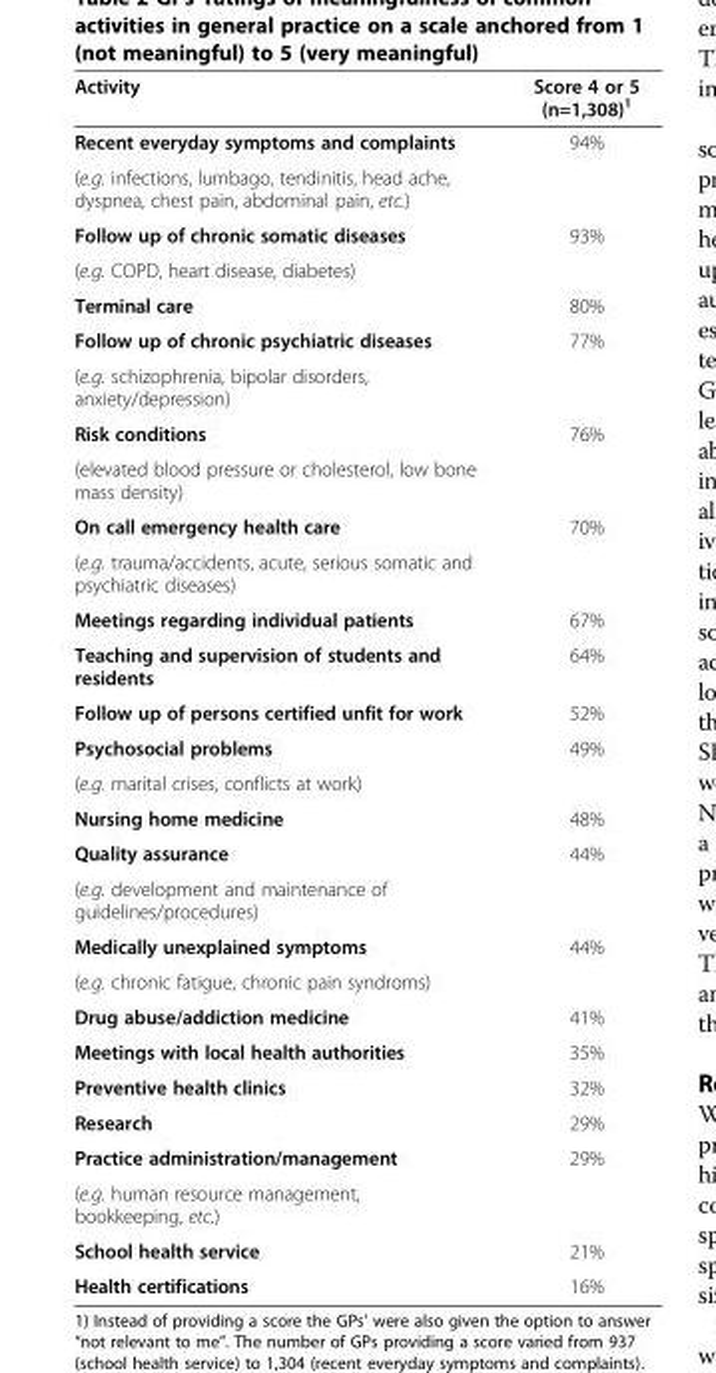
<table><thead><tr><td>Activity</td><td>Score 4 or 5 (n=1,308)<sup>1</sup></td></tr></thead><tbody><tr><td>Recent everyday symptoms and complaints</td><td rowspan="2">94%</td></tr><tr><td>(e.g. infections, lumbago, tendinitis, head ache, dyspnea, chest pain, abdominal pain, etc.)</td></tr><tr><td>Follow up of chronic somatic diseases</td><td rowspan="2">93%</td></tr><tr><td>(e.g. COPD, heart disease, diabetes)</td></tr><tr><td>Terminal care</td><td>80%</td></tr><tr><td>Follow up of chronic psychiatric diseases</td><td rowspan="2">77%</td></tr><tr><td>(e.g. schizophrenia, bipolar disorders, anxiety/depression)</td></tr><tr><td>Risk conditions</td><td rowspan="2">76%</td></tr><tr><td>(elevated blood pressure or cholesterol, low bone mass density)</td></tr><tr><td>On call emergency health care</td><td rowspan="2">70%</td></tr><tr><td>(e.g. trauma/accidents, acute, serious somatic and psychiatric diseases)</td></tr><tr><td>Meetings regarding individual patients</td><td>67%</td></tr><tr><td>Teaching and supervision of students and residents</td><td>64%</td></tr><tr><td>Follow up of persons certified unfit for work</td><td>52%</td></tr><tr><td>Psychosocial problems</td><td rowspan="2">49%</td></tr><tr><td>(e.g. marital crises, conflicts at work)</td></tr><tr><td>Nursing home medicine</td><td>48%</td></tr><tr><td>Quality assurance</td><td rowspan="2">44%</td></tr><tr><td>(e.g. development and maintenance of guidelines/procedures)</td></tr><tr><td>Medically unexplained symptoms</td><td rowspan="2">44%</td></tr><tr><td>(e.g. chronic fatigue, chronic pain syndroms)</td></tr><tr><td>Drug abuse/addiction medicine</td><td>41%</td></tr><tr><td>Meetings with local health authorities</td><td>35%</td></tr><tr><td>Preventive health clinics</td><td>32%</td></tr><tr><td>Research</td><td>29%</td></tr><tr><td>Practice administration/management</td><td rowspan="2">29%</td></tr><tr><td>(e.g. human resource management, bookkeeping, etc.)</td></tr><tr><td>School health service</td><td>21%</td></tr><tr><td>Health certifications</td><td>16%</td></tr></tbody></table>